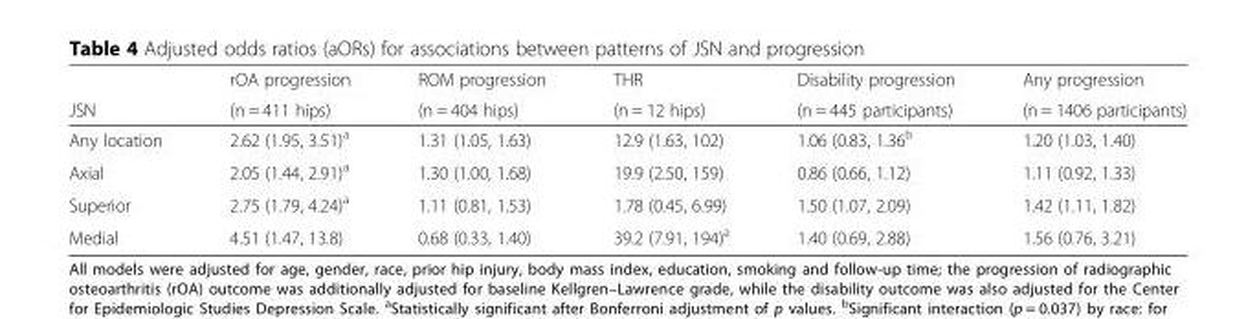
<table><thead><tr><td rowspan="2">JSN</td><td rowspan="2">rOA progression (n = 411 hips)</td><td rowspan="2">ROM progression (n = 404 hips)</td><td rowspan="2">THR (n = 12 hips)</td><td rowspan="2">Disability progression (n = 445 participants)</td><td rowspan="2">Any progression (n = 1406 participants)</td></tr><tr></tr></thead><tbody><tr><td>Any location</td><td>2.62 (1.95, 3.51)<sup>a</sup></td><td>1.31 (1.05, 1.63)</td><td>12.9 (1.63, 102)</td><td>1.06 (0.83, 1.36<sup>b</sup></td><td>1.20 (1.03, 1.40)</td></tr><tr><td>Axial</td><td>2.05 (1.44, 2.91)<sup>a</sup></td><td>1.30 (1.00, 1.68)</td><td>19.9 (2.50, 159)</td><td>0.86 (0.66, 1.12)</td><td>1.11 (0.92, 1.33)</td></tr><tr><td>Superior</td><td>2.75 (1.79, 4.24)<sup>a</sup></td><td>1.11 (0.81, 1.53)</td><td>1.78 (0.45, 6.99)</td><td>1.50 (1.07, 2.09)</td><td>1.42 (1.11, 1.82)</td></tr><tr><td>Medial</td><td>4.51 (1.47, 13.8)</td><td>0.68 (0.33, 1.40)</td><td>39.2 (7.91, 194)<sup>a</sup></td><td>1.40 (0.69, 2.88)</td><td>1.56 (0.76, 3.21)</td></tr></tbody></table>